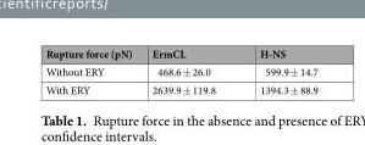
<table><thead><tr><td>Rupture force (pN)</td><td>ErmCL</td><td>H-NS</td></tr></thead><tbody><tr><td>Without ERY</td><td>468.6 ± 26.0</td><td>599.9 ± 14.7</td></tr><tr><td>With ERY</td><td>2639.9 ± 119.8</td><td>1394.3 ± 88.9</td></tr></tbody></table>